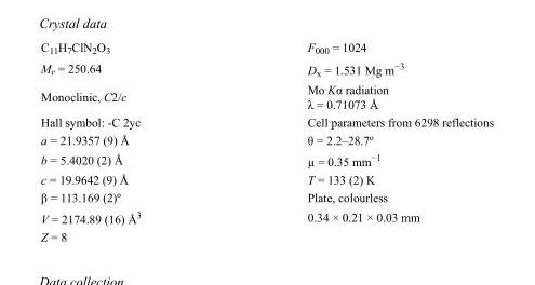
<table><tbody><tr><td>C<sub>11</sub>H<sub>7</sub>ClN<sub>2</sub>O<sub>3</sub></td><td>F000 = 1024</td></tr><tr><td>M<sub>r</sub> = 250.64</td><td>D<sub>x</sub> = 1.531 Mg m<sup>−3</sup></td></tr><tr><td>Monoclinic, C2/c</td><td>Mo Kα radiation λ = 0.71073 Å</td></tr><tr><td>Hall symbol: -C 2yc</td><td>Cell parameters from 6298 reflections</td></tr><tr><td>a = 21.9357 (9) Å</td><td>θ = 2.2–28.7º</td></tr><tr><td>b = 5.4020 (2) Å</td><td>µ = 0.35 mm<sup>−1</sup></td></tr><tr><td>c = 19.9642 (9) Å</td><td>T = 133 (2) K</td></tr><tr><td>β = 113.169 (2)º</td><td>Plate, colourless</td></tr><tr><td>V = 2174.89 (16) Å<sup>3</sup></td><td>0.34 × 0.21 × 0.03 mm</td></tr><tr><td>Z = 8</td><td></td></tr></tbody></table>